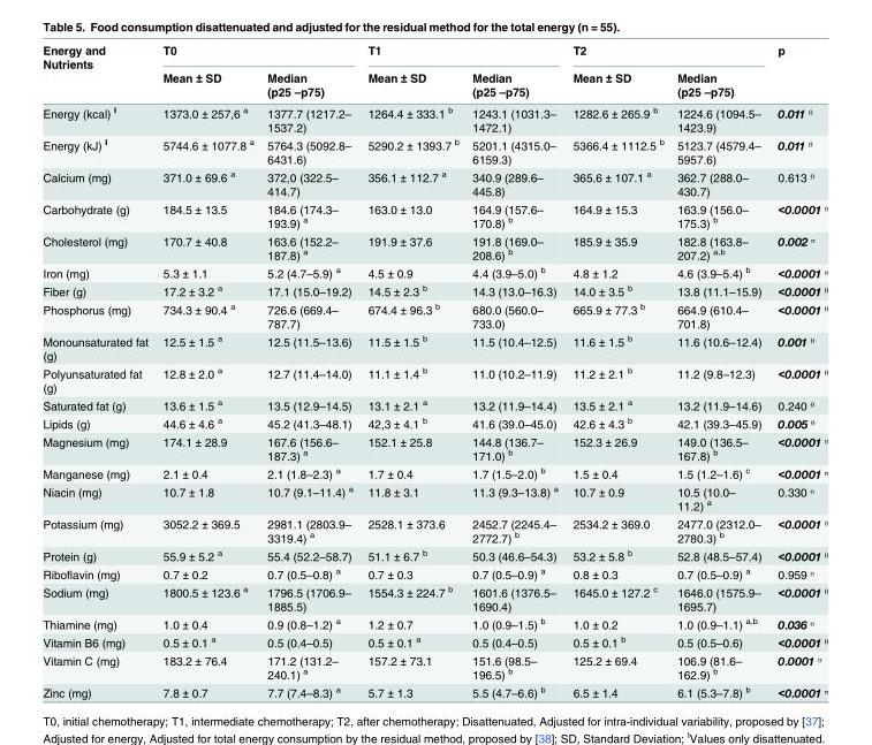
<table><thead><tr><td rowspan="2">Energy and Nutrients</td><td colspan="2">T0</td><td colspan="2">T1</td><td colspan="2">T2</td><td rowspan="2">p</td></tr><tr><td>Mean ± SD</td><td>Median (p25 –p75)</td><td>Mean ± SD</td><td>Median (p25 –p75)</td><td>Mean ± SD</td><td>Median (p25 –p75)</td></tr></thead><tbody><tr><td>Energy (kcal) <sup>I</sup></td><td>1373.0 ± 257,6 <sup>a</sup></td><td>1377.7 (1217.2– 1537.2)</td><td>1264.4 ± 333.1 <sup>b</sup></td><td>1243.1 (1031.3– 1472.1)</td><td>1282.6 ± 265.9 <sup>b</sup></td><td>1224.6 (1094.5– 1423.9)</td><td>0.011 ᶿ</td></tr><tr><td>Energy (kJ) <sup>I</sup></td><td>5744.6 ± 1077.8 <sup>a</sup></td><td>5764.3 (5092.8– 6431.6)</td><td>5290.2 ± 1393.7 <sup>b</sup></td><td>5201.1 (4315.0– 6159.3)</td><td>5366.4 ± 1112.5 <sup>b</sup></td><td>5123.7 (4579.4– 5957.6)</td><td>0.011 ᶿ</td></tr><tr><td>Calcium (mg)</td><td>371.0 ± 69.6 <sup>a</sup></td><td>372,0 (322.5– 414.7)</td><td>356.1 ± 112.7 <sup>a</sup></td><td>340.9 (289.6– 445.8)</td><td>365.6 ± 107.1 <sup>a</sup></td><td>362.7 (288.0– 430.7)</td><td>0.613 ᶿ</td></tr><tr><td>Carbohydrate (g)</td><td>184.5 ± 13.5</td><td>184.6 (174.3– 193.9) <sup>a</sup></td><td>163.0 ± 13.0</td><td>164.9 (157.6– 170.8) <sup>b</sup></td><td>164.9 ± 15.3</td><td>163.9 (156.0– 175.3) <sup>b</sup></td><td>&lt;0.0001 ᶷ</td></tr><tr><td>Cholesterol (mg)</td><td>170.7 ± 40.8</td><td>163.6 (152.2– 187.8) <sup>a</sup></td><td>191.9 ± 37.6</td><td>191.8 (169.0– 208.6) <sup>b</sup></td><td>185.9 ± 35.9</td><td>182.8 (163.8– 207.2) <sup>a,b</sup></td><td>0.002 ᶷ</td></tr><tr><td>Iron (mg)</td><td>5.3 ± 1.1</td><td>5.2 (4.7–5.9) <sup>a</sup></td><td>4.5 ± 0.9</td><td>4.4 (3.9–5.0) <sup>b</sup></td><td>4.8 ± 1.2</td><td>4.6 (3.9–5.4) <sup>b</sup></td><td>&lt;0.0001 ᶷ</td></tr><tr><td>Fiber (g)</td><td>17.2 ± 3.2 <sup>a</sup></td><td>17.1 (15.0–19.2)</td><td>14.5 ± 2.3 <sup>b</sup></td><td>14.3 (13.0–16.3)</td><td>14.0 ± 3.5 <sup>b</sup></td><td>13.8 (11.1–15.9)</td><td>&lt;0.0001 ᶿ</td></tr><tr><td>Phosphorus (mg)</td><td>734.3 ± 90.4 <sup>a</sup></td><td>726.6 (669.4– 787.7)</td><td>674.4 ± 96.3 <sup>b</sup></td><td>680.0 (560.0– 733.0)</td><td>665.9 ± 77.3 <sup>b</sup></td><td>664.9 (610.4– 701.8)</td><td>&lt;0.0001 ᶿ</td></tr><tr><td>Monounsaturated fat (g)</td><td>12.5 ± 1.5 <sup>a</sup></td><td>12.5 (11.5–13.6)</td><td>11.5 ± 1.5 <sup>b</sup></td><td>11.5 (10.4–12.5)</td><td>11.6 ± 1.5 <sup>b</sup></td><td>11.6 (10.6–12.4)</td><td>0.001 ᶿ</td></tr><tr><td>Polyunsaturated fat (g)</td><td>12.8 ± 2.0 <sup>a</sup></td><td>12.7 (11.4–14.0)</td><td>11.1 ± 1.4 <sup>b</sup></td><td>11.0 (10.2–11.9)</td><td>11.2 ± 2.1 <sup>b</sup></td><td>11.2 (9.8–12.3)</td><td>&lt;0.0001 ᶿ</td></tr><tr><td>Saturated fat (g)</td><td>13.6 ± 1.5 <sup>a</sup></td><td>13.5 (12.9–14.5)</td><td>13.1 ± 2.1 <sup>a</sup></td><td>13.2 (11.9–14.4)</td><td>13.5 ± 2.1 <sup>a</sup></td><td>13.2 (11.9–14.6)</td><td>0.240 ᶿ</td></tr><tr><td>Lipids (g)</td><td>44.6 ± 4.6 <sup>a</sup></td><td>45.2 (41.3–48.1)</td><td>42,3 ± 4.1 <sup>b</sup></td><td>41.6 (39.0–45.0)</td><td>42.6 ± 4.3 <sup>b</sup></td><td>42.1 (39.3–45.9)</td><td>0.005 ᶿ</td></tr><tr><td>Magnesium (mg)</td><td>174.1 ± 28.9</td><td>167.6 (156.6– 187.3) <sup>a</sup></td><td>152.1 ± 25.8</td><td>144.8 (136.7– 171.0) <sup>b</sup></td><td>152.3 ± 26.9</td><td>149.0 (136.5– 167.8) <sup>b</sup></td><td>&lt;0.0001 ᶷ</td></tr><tr><td>Manganese (mg)</td><td>2.1 ± 0.4</td><td>2.1 (1.8–2.3) <sup>a</sup></td><td>1.7 ± 0.4</td><td>1.7 (1.5–2.0) <sup>b</sup></td><td>1.5 ± 0.4</td><td>1.5 (1.2–1.6) <sup>c</sup></td><td>&lt;0.0001 ᶷ</td></tr><tr><td>Niacin (mg)</td><td>10.7 ± 1.8</td><td>10.7 (9.1–11.4) <sup>a</sup></td><td>11.8 ± 3.1</td><td>11.3 (9.3–13.8) <sup>a</sup></td><td>10.7 ± 0.9</td><td>10.5 (10.0– 11.2) <sup>a</sup></td><td>0.330 ᶷ</td></tr><tr><td>Potassium (mg)</td><td>3052.2 ± 369.5</td><td>2981.1 (2803.9– 3319.4) <sup>a</sup></td><td>2528.1 ± 373.6</td><td>2452.7 (2245.4– 2772.7) <sup>b</sup></td><td>2534.2 ± 369.0</td><td>2477.0 (2312.0– 2780.3) <sup>b</sup></td><td>&lt;0.0001 ᶷ</td></tr><tr><td>Protein (g)</td><td>55.9 ± 5.2 <sup>a</sup></td><td>55.4 (52.2–58.7)</td><td>51.1 ± 6.7 <sup>b</sup></td><td>50.3 (46.6–54.3)</td><td>53.2 ± 5.8 <sup>b</sup></td><td>52.8 (48.5–57.4)</td><td>&lt;0.0001 ᶿ</td></tr><tr><td>Riboflavin (mg)</td><td>0.7 ± 0.2</td><td>0.7 (0.5–0.8) <sup>a</sup></td><td>0.7 ± 0.3</td><td>0.7 (0.5–0.9) <sup>a</sup></td><td>0.8 ± 0.3</td><td>0.7 (0.5–0.9) <sup>a</sup></td><td>0.959 ᶷ</td></tr><tr><td>Sodium (mg)</td><td>1800.5 ± 123.6 <sup>a</sup></td><td>1796.5 (1706.9– 1885.5)</td><td>1554.3 ± 224.7 <sup>b</sup></td><td>1601.6 (1376.5– 1690.4)</td><td>1645.0 ± 127.2 <sup>c</sup></td><td>1646.0 (1575.9– 1695.7)</td><td>&lt;0.0001 ᶿ</td></tr><tr><td>Thiamine (mg)</td><td>1.0 ± 0.4</td><td>0.9 (0.8–1.2) <sup>a</sup></td><td>1.2 ± 0.7</td><td>1.0 (0.9–1.5) <sup>b</sup></td><td>1.0 ± 0.2</td><td>1.0 (0.9–1.1) <sup>a,b</sup></td><td>0.036 ᶷ</td></tr><tr><td>Vitamin B6 (mg)</td><td>0.5 ± 0.1 <sup>a</sup></td><td>0.5 (0.4–0.5)</td><td>0.5 ± 0.1 <sup>a</sup></td><td>0.5 (0.4–0.5)</td><td>0.5 ± 0.1 <sup>b</sup></td><td>0.5 (0.5–0.6)</td><td>&lt;0.0001 ᶿ</td></tr><tr><td>Vitamin C (mg)</td><td>183.2 ± 76.4</td><td>171.2 (131.2– 240.1) <sup>a</sup></td><td>157.2 ± 73.1</td><td>151.6 (98.5– 196.5) <sup>b</sup></td><td>125.2 ± 69.4</td><td>106.9 (81.6– 162.9) <sup>b</sup></td><td>0.0001 ᶷ</td></tr><tr><td>Zinc (mg)</td><td>7.8 ± 0.7</td><td>7.7 (7.4–8.3) <sup>a</sup></td><td>5.7 ± 1.3</td><td>5.5 (4.7–6.6) <sup>b</sup></td><td>6.5 ± 1.4</td><td>6.1 (5.3–7.8) <sup>b</sup></td><td>&lt;0.0001 ᶷ</td></tr></tbody></table>